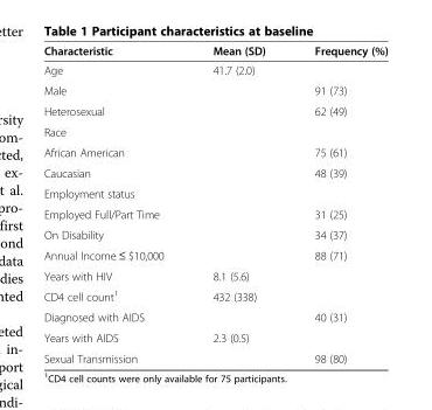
<table><thead><tr><td>Characteristic</td><td>Mean (SD)</td><td>Frequency (%)</td></tr></thead><tbody><tr><td>Age</td><td>41.7 (2.0)</td><td></td></tr><tr><td>Male</td><td></td><td>91 (73)</td></tr><tr><td>Heterosexual</td><td></td><td>62 (49)</td></tr><tr><td colspan="3">Race</td></tr><tr><td>African American</td><td></td><td>75 (61)</td></tr><tr><td>Caucasian</td><td></td><td>48 (39)</td></tr><tr><td colspan="3">Employment status</td></tr><tr><td>Employed Full/Part Time</td><td></td><td>31 (25)</td></tr><tr><td>On Disability</td><td></td><td>34 (37)</td></tr><tr><td>Annual Income ≤ $10,000</td><td></td><td>88 (71)</td></tr><tr><td>Years with HIV</td><td>8.1 (5.6)</td><td></td></tr><tr><td>CD4 cell count<sup>1</sup></td><td>432 (338)</td><td></td></tr><tr><td>Diagnosed with AIDS</td><td></td><td>40 (31)</td></tr><tr><td>Years with AIDS</td><td>2.3 (0.5)</td><td></td></tr><tr><td>Sexual Transmission</td><td></td><td>98 (80)</td></tr></tbody></table>